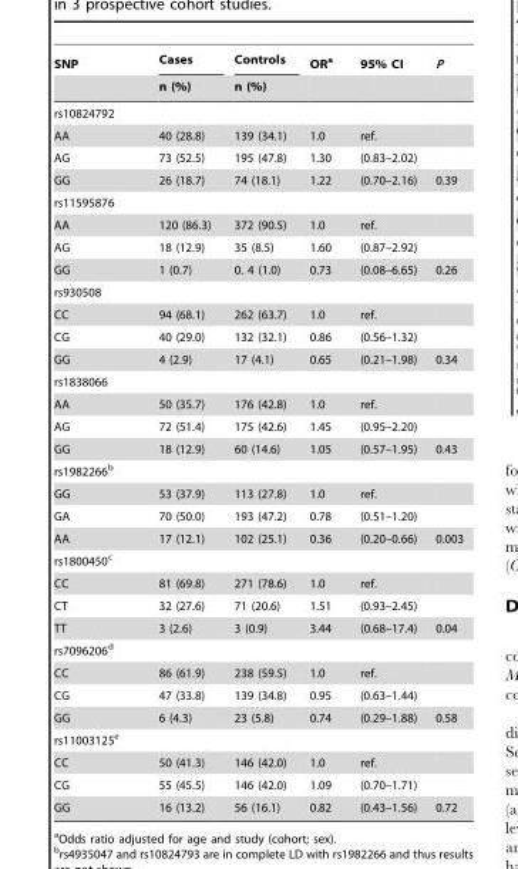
<table><thead><tr><td rowspan="2">SNP</td><td rowspan="2">Cases n (%)</td><td rowspan="2">Controls n (%)</td><td rowspan="2">OR<sup>a</sup></td><td rowspan="2">95% CI</td><td rowspan="2">P</td></tr><tr></tr></thead><tbody><tr><td colspan="6">rs10824792</td></tr><tr><td>AA</td><td>40 (28.8)</td><td>139 (34.1)</td><td>1.0</td><td>ref.</td><td></td></tr><tr><td>AG</td><td>73 (52.5)</td><td>195 (47.8)</td><td>1.30</td><td>(0.83–2.02)</td><td></td></tr><tr><td>GG</td><td>26 (18.7)</td><td>74 (18.1)</td><td>1.22</td><td>(0.70–2.16)</td><td>0.39</td></tr><tr><td colspan="6">rs11595876</td></tr><tr><td>AA</td><td>120 (86.3)</td><td>372 (90.5)</td><td>1.0</td><td>ref.</td><td></td></tr><tr><td>AG</td><td>18 (12.9)</td><td>35 (8.5)</td><td>1.60</td><td>(0.87–2.92)</td><td></td></tr><tr><td>GG</td><td>1 (0.7)</td><td>0. 4 (1.0)</td><td>0.73</td><td>(0.08–6.65)</td><td>0.26</td></tr><tr><td colspan="6">rs930508</td></tr><tr><td>CC</td><td>94 (68.1)</td><td>262 (63.7)</td><td>1.0</td><td>ref.</td><td></td></tr><tr><td>CG</td><td>40 (29.0)</td><td>132 (32.1)</td><td>0.86</td><td>(0.56–1.32)</td><td></td></tr><tr><td>GG</td><td>4 (2.9)</td><td>17 (4.1)</td><td>0.65</td><td>(0.21–1.98)</td><td>0.34</td></tr><tr><td colspan="6">rs1838066</td></tr><tr><td>AA</td><td>50 (35.7)</td><td>176 (42.8)</td><td>1.0</td><td>ref.</td><td></td></tr><tr><td>AG</td><td>72 (51.4)</td><td>175 (42.6)</td><td>1.45</td><td>(0.95–2.20)</td><td></td></tr><tr><td>GG</td><td>18 (12.9)</td><td>60 (14.6)</td><td>1.05</td><td>(0.57–1.95)</td><td>0.43</td></tr><tr><td colspan="6">rs1982266<sup>b</sup></td></tr><tr><td>GG</td><td>53 (37.9)</td><td>113 (27.8)</td><td>1.0</td><td>ref.</td><td></td></tr><tr><td>GA</td><td>70 (50.0)</td><td>193 (47.2)</td><td>0.78</td><td>(0.51–1.20)</td><td></td></tr><tr><td>AA</td><td>17 (12.1)</td><td>102 (25.1)</td><td>0.36</td><td>(0.20–0.66)</td><td>0.003</td></tr><tr><td colspan="6">rs1800450<sup>c</sup></td></tr><tr><td>CC</td><td>81 (69.8)</td><td>271 (78.6)</td><td>1.0</td><td>ref.</td><td></td></tr><tr><td>CT</td><td>32 (27.6)</td><td>71 (20.6)</td><td>1.51</td><td>(0.93–2.45)</td><td></td></tr><tr><td>TT</td><td>3 (2.6)</td><td>3 (0.9)</td><td>3.44</td><td>(0.68–17.4)</td><td>0.04</td></tr><tr><td colspan="6">rs7096206<sup>d</sup></td></tr><tr><td>CC</td><td>86 (61.9)</td><td>238 (59.5)</td><td>1.0</td><td>ref.</td><td></td></tr><tr><td>CG</td><td>47 (33.8)</td><td>139 (34.8)</td><td>0.95</td><td>(0.63–1.44)</td><td></td></tr><tr><td>GG</td><td>6 (4.3)</td><td>23 (5.8)</td><td>0.74</td><td>(0.29–1.88)</td><td>0.58</td></tr><tr><td colspan="6">rs11003125<sup>e</sup></td></tr><tr><td>CC</td><td>50 (41.3)</td><td>146 (42.0)</td><td>1.0</td><td>ref.</td><td></td></tr><tr><td>CG</td><td>55 (45.5)</td><td>146 (42.0)</td><td>1.09</td><td>(0.70–1.71)</td><td></td></tr><tr><td>GG</td><td>16 (13.2)</td><td>56 (16.1)</td><td>0.82</td><td>(0.43–1.56)</td><td>0.72</td></tr></tbody></table>